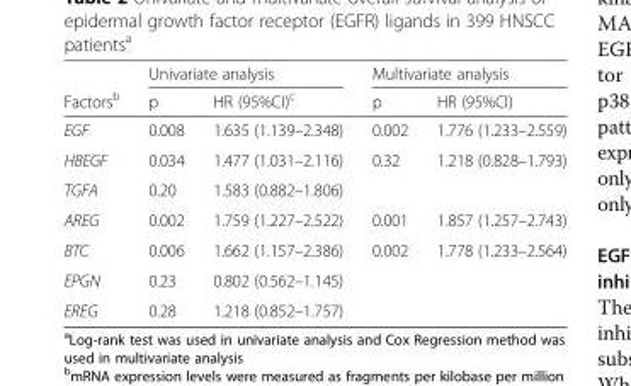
<table><thead><tr><td rowspan="2">Factors<sup>b</sup></td><td colspan="2">Univariate analysis</td><td colspan="2">Multivariate analysis</td></tr><tr><td>p</td><td>HR (95%CI)<sup>c</sup></td><td>p</td><td>HR (95%CI)</td></tr></thead><tbody><tr><td>EGF</td><td>0.008</td><td>1.635 (1.139–2.348)</td><td>0.002</td><td>1.776 (1.233–2.559)</td></tr><tr><td>HBEGF</td><td>0.034</td><td>1.477 (1.031–2.116)</td><td>0.32</td><td>1.218 (0.828–1.793)</td></tr><tr><td>TGFA</td><td>0.20</td><td>1.583 (0.882–1.806)</td><td></td><td></td></tr><tr><td>AREG</td><td>0.002</td><td>1.759 (1.227–2.522)</td><td>0.001</td><td>1.857 (1.257–2.743)</td></tr><tr><td>BTC</td><td>0.006</td><td>1.662 (1.157–2.386)</td><td>0.002</td><td>1.778 (1.233–2.564)</td></tr><tr><td>EPGN</td><td>0.23</td><td>0.802 (0.562–1.145)</td><td></td><td></td></tr><tr><td>EREG</td><td>0.28</td><td>1.218 (0.852–1.757)</td><td></td><td></td></tr></tbody></table>